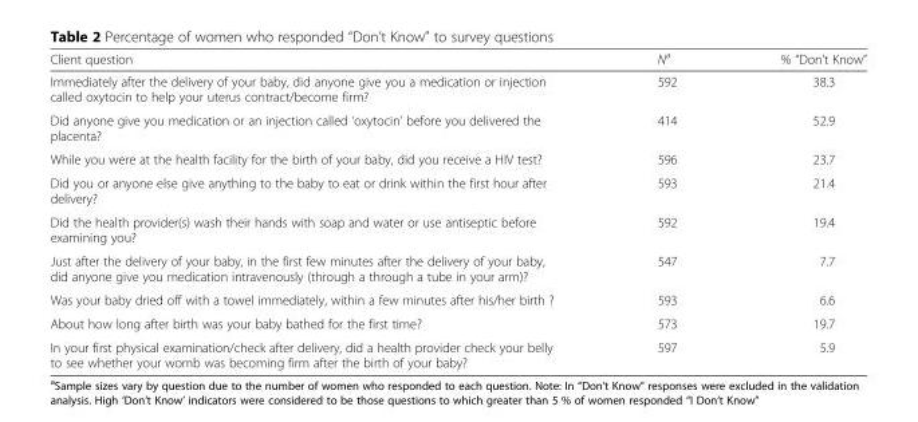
<table><thead><tr><td>Client question</td><td>N<sup>a</sup></td><td>% “Don’t Know”</td></tr></thead><tbody><tr><td>Immediately after the delivery of your baby, did anyone give you a medication or injection called oxytocin to help your uterus contract/become firm?</td><td>592</td><td>38.3</td></tr><tr><td>Did anyone give you medication or an injection called ‘oxytocin’ before you delivered the placenta?</td><td>414</td><td>52.9</td></tr><tr><td>While you were at the health facility for the birth of your baby, did you receive a HIV test?</td><td>596</td><td>23.7</td></tr><tr><td>Did you or anyone else give anything to the baby to eat or drink within the first hour after delivery?</td><td>593</td><td>21.4</td></tr><tr><td>Did the health provider(s) wash their hands with soap and water or use antiseptic before examining you?</td><td>592</td><td>19.4</td></tr><tr><td>Just after the delivery of your baby, in the first few minutes after the delivery of your baby, did anyone give you medication intravenously (through a through a tube in your arm)?</td><td>547</td><td>7.7</td></tr><tr><td>Was your baby dried off with a towel immediately, within a few minutes after his/her birth ?</td><td>593</td><td>6.6</td></tr><tr><td>About how long after birth was your baby bathed for the first time?</td><td>573</td><td>19.7</td></tr><tr><td>In your first physical examination/check after delivery, did a health provider check your belly to see whether your womb was becoming firm after the birth of your baby?</td><td>597</td><td>5.9</td></tr></tbody></table>